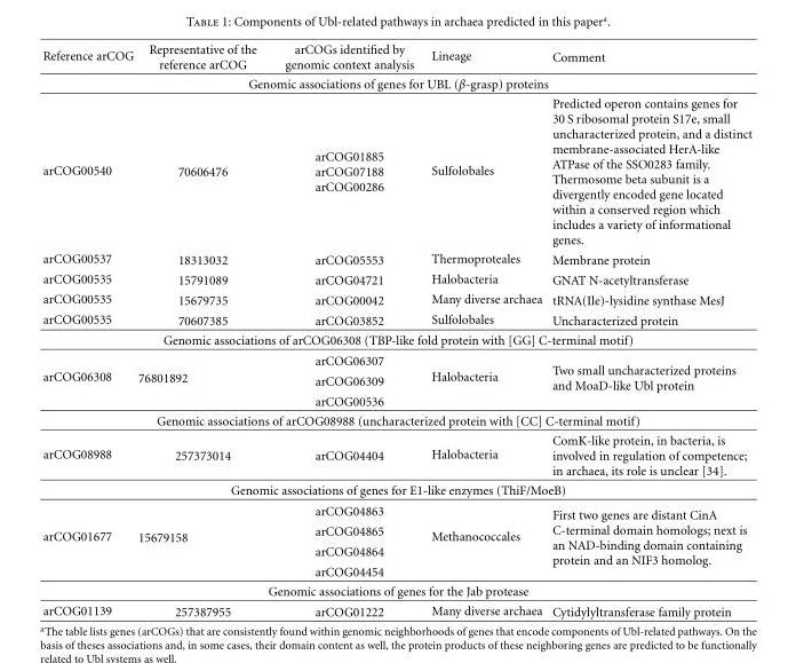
<table><thead><tr><td>Reference arCOG</td><td>Representative of the reference arCOG</td><td>arCOGs identified by genomic context analysis</td><td>Lineage</td><td>Comment</td></tr></thead><tbody><tr><td colspan="5">Genomic associations of genes for UBL (β-grasp) proteins</td></tr><tr><td>arCOG00540</td><td>70606476</td><td>arCOG01885 arCOG07188 arCOG00286</td><td>Sulfolobales</td><td>Predicted operon contains genes for 30 S ribosomal protein S17e, small uncharacterized protein, and a distinct membrane-associated HerA-like ATPase of the SSO0283 family. Thermosome beta subunit is a divergently encoded gene located within a conserved region which includes a variety of informational genes.</td></tr><tr><td>arCOG00537</td><td>18313032</td><td>arCOG05553</td><td>Thermoproteales</td><td>Membrane protein</td></tr><tr><td>arCOG00535</td><td>15791089</td><td>arCOG04721</td><td>Halobacteria</td><td>GNAT N-acetyltransferase</td></tr><tr><td>arCOG00535</td><td>15679735</td><td>arCOG00042</td><td>Many diverse archaea</td><td>tRNA(Ile)-lysidine synthase MesJ</td></tr><tr><td>arCOG00535</td><td>70607385</td><td>arCOG03852</td><td>Sulfolobales</td><td>Uncharacterized protein</td></tr><tr><td colspan="5">Genomic associations of arCOG06308 (TBP-like fold protein with [GG] C-terminal motif)</td></tr><tr><td rowspan="3">arCOG06308</td><td rowspan="3">76801892</td><td>arCOG06307</td><td rowspan="3">Halobacteria</td><td rowspan="3">Two small uncharacterized proteins and MoaD-like Ubl protein</td></tr><tr><td>arCOG06309</td></tr><tr><td>arCOG00536</td></tr><tr><td colspan="5">Genomic associations of arCOG08988 (uncharacterized protein with [CC] C-terminal motif)</td></tr><tr><td>arCOG08988</td><td>257373014</td><td>arCOG04404</td><td>Halobacteria</td><td>ComK-like protein, in bacteria, is involved in regulation of competence; in archaea, its role is unclear [34].</td></tr><tr><td colspan="5">Genomic associations of genes for E1-like enzymes (ThiF/MoeB)</td></tr><tr><td rowspan="4">arCOG01677</td><td rowspan="4">15679158</td><td>arCOG04863</td><td rowspan="4">Methanococcales</td><td rowspan="4">First two genes are distant CinA C-terminal domain homologs; next is an NAD-binding domain containing protein and an NIF3 homolog.</td></tr><tr><td>arCOG04865</td></tr><tr><td>arCOG04864</td></tr><tr><td>arCOG04454</td></tr><tr><td colspan="5">Genomic associations of genes for the Jab protease</td></tr><tr><td>arCOG01139</td><td>257387955</td><td>arCOG01222</td><td>Many diverse archaea</td><td>Cytidylyltransferase family protein</td></tr></tbody></table>